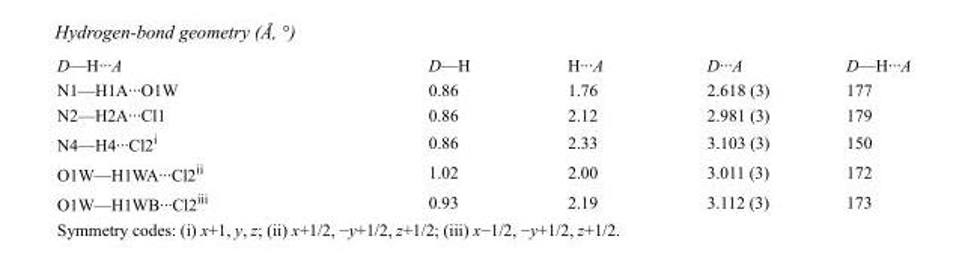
<table><tbody><tr><td>D—H···A</td><td>D—H</td><td>H···A</td><td>D···A</td><td>D—H···A</td></tr><tr><td>N1—H1A···O1W</td><td>0.86</td><td>1.76</td><td>2.618 (3)</td><td>177</td></tr><tr><td>N2—H2A···Cl1</td><td>0.86</td><td>2.12</td><td>2.981 (3)</td><td>179</td></tr><tr><td>N4—H4···Cl2<sup>i</sup></td><td>0.86</td><td>2.33</td><td>3.103 (3)</td><td>150</td></tr><tr><td>O1W—H1WA···Cl2<sup>ii</sup></td><td>1.02</td><td>2.00</td><td>3.011 (3)</td><td>172</td></tr><tr><td>O1W—H1WB···Cl2<sup>iii</sup></td><td>0.93</td><td>2.19</td><td>3.112 (3)</td><td>173</td></tr></tbody></table>